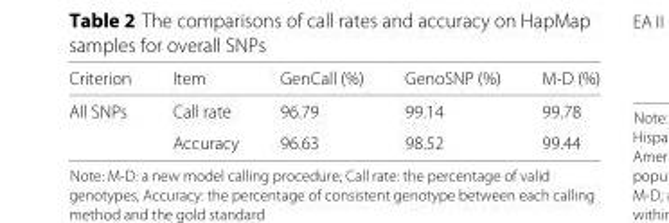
<table><thead><tr><td>Criterion</td><td>Item</td><td>GenCall (%)</td><td>GenoSNP (%)</td><td>M-D (%)</td></tr></thead><tbody><tr><td rowspan="2">All SNPs</td><td>Call rate</td><td>96.79</td><td>99.14</td><td>99.78</td></tr><tr><td>Accuracy</td><td>96.63</td><td>98.52</td><td>99.44</td></tr></tbody></table>